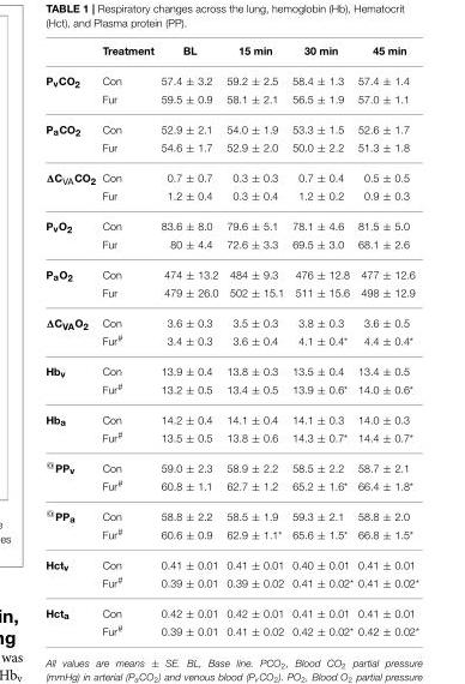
<table><thead><tr><td></td><td>Treatment</td><td>BL</td><td>15 min</td><td>30 min</td><td>45 min</td></tr></thead><tbody><tr><td rowspan="2">P<sub>v</sub>CO<sub>2</sub></td><td>Con</td><td>57.4 ± 3.2</td><td>59.2 ± 2.5</td><td>58.4 ± 1.3</td><td>57.4 ± 1.4</td></tr><tr><td>Fur</td><td>59.5 ± 0.9</td><td>58.1 ± 2.1</td><td>56.5 ± 1.9</td><td>57.0 ± 1.1</td></tr><tr><td rowspan="2">P<sub>a</sub>CO<sub>2</sub></td><td>Con</td><td>52.9 ± 2.1</td><td>54.0 ± 1.9</td><td>53.3 ± 1.5</td><td>52.6 ± 1.7</td></tr><tr><td>Fur</td><td>54.6 ± 1.7</td><td>52.9 ± 2.0</td><td>50.0 ± 2.2</td><td>51.3 ± 1.8</td></tr><tr><td rowspan="2">ΔC<sub>VA</sub>CO<sub>2</sub></td><td>Con</td><td>0.7 ± 0.7</td><td>0.3 ± 0.3</td><td>0.7 ± 0.4</td><td>0.5 ± 0.5</td></tr><tr><td>Fur</td><td>1.2 ± 0.4</td><td>0.3 ± 0.4</td><td>1.2 ± 0.2</td><td>0.9 ± 0.3</td></tr><tr><td rowspan="2">P<sub>v</sub>O<sub>2</sub></td><td>Con</td><td>83.6 ± 8.0</td><td>79.6 ± 5.1</td><td>78.1 ± 4.6</td><td>81.5 ± 5.0</td></tr><tr><td>Fur</td><td>80 ± 4.4</td><td>72.6 ± 3.3</td><td>69.5 ± 3.0</td><td>68.1 ± 2.6</td></tr><tr><td rowspan="2">P<sub>a</sub>O<sub>2</sub></td><td>Con</td><td>474 ± 13.2</td><td>484 ± 9.3</td><td>476 ± 12.8</td><td>477 ± 12.6</td></tr><tr><td>Fur</td><td>479 ± 26.0</td><td>502 ± 15.1</td><td>511 ± 15.6</td><td>498 ± 12.9</td></tr><tr><td rowspan="2">ΔC<sub>VA</sub>O<sub>2</sub></td><td>Con</td><td>3.6 ± 0.3</td><td>3.5 ± 0.3</td><td>3.8 ± 0.3</td><td>3.6 ± 0.5</td></tr><tr><td>Fur<sup>#</sup></td><td>3.4 ± 0.3</td><td>3.6 ± 0.4</td><td>4.1 ± 0.4*</td><td>4.4 ± 0.4*</td></tr><tr><td rowspan="2">Hb<sub>v</sub></td><td>Con</td><td>13.9 ± 0.4</td><td>13.8 ± 0.3</td><td>13.5 ± 0.4</td><td>13.4 ± 0.5</td></tr><tr><td>Fur<sup>#</sup></td><td>13.2 ± 0.5</td><td>13.4 ± 0.5</td><td>13.9 ± 0.6*</td><td>14.0 ± 0.6*</td></tr><tr><td rowspan="2">Hb<sub>a</sub></td><td>Con</td><td>14.2 ± 0.4</td><td>14.1 ± 0.4</td><td>14.1 ± 0.3</td><td>14.0 ± 0.3</td></tr><tr><td>Fur<sup>#</sup></td><td>13.5 ± 0.5</td><td>13.8 ± 0.6</td><td>14.3 ± 0.7*</td><td>14.4 ± 0.7*</td></tr><tr><td rowspan="2"><sup>@</sup>PP<sub>v</sub></td><td>Con</td><td>59.0 ± 2.3</td><td>58.9 ± 2.2</td><td>58.5 ± 2.2</td><td>58.7 ± 2.1</td></tr><tr><td>Fur<sup>#</sup></td><td>60.8 ± 1.1</td><td>62.7 ± 1.2</td><td>65.2 ± 1.6*</td><td>66.4 ± 1.8*</td></tr><tr><td rowspan="2"><sup>@</sup>PP<sub>a</sub></td><td>Con</td><td>58.8 ± 2.2</td><td>58.5 ± 1.9</td><td>59.3 ± 2.1</td><td>58.8 ± 2.0</td></tr><tr><td>Fur<sup>#</sup></td><td>60.6 ± 0.9</td><td>62.9 ± 1.1*</td><td>65.6 ± 1.5*</td><td>66.8 ± 1.5*</td></tr><tr><td rowspan="2">Hct<sub>v</sub></td><td>Con</td><td>0.41 ± 0.01</td><td>0.41 ± 0.01</td><td>0.40 ± 0.01</td><td>0.41 ± 0.01</td></tr><tr><td>Fur<sup>#</sup></td><td>0.39 ± 0.01</td><td>0.39 ± 0.02</td><td>0.41 ± 0.02*</td><td>0.41 ± 0.02*</td></tr><tr><td rowspan="2">Hct<sub>a</sub></td><td>Con</td><td>0.42 ± 0.01</td><td>0.42 ± 0.01</td><td>0.41 ± 0.01</td><td>0.41 ± 0.01</td></tr><tr><td>Fur<sup>#</sup></td><td>0.39 ± 0.01</td><td>0.41 ± 0.02</td><td>0.42 ± 0.02*</td><td>0.42 ± 0.02*</td></tr></tbody></table>